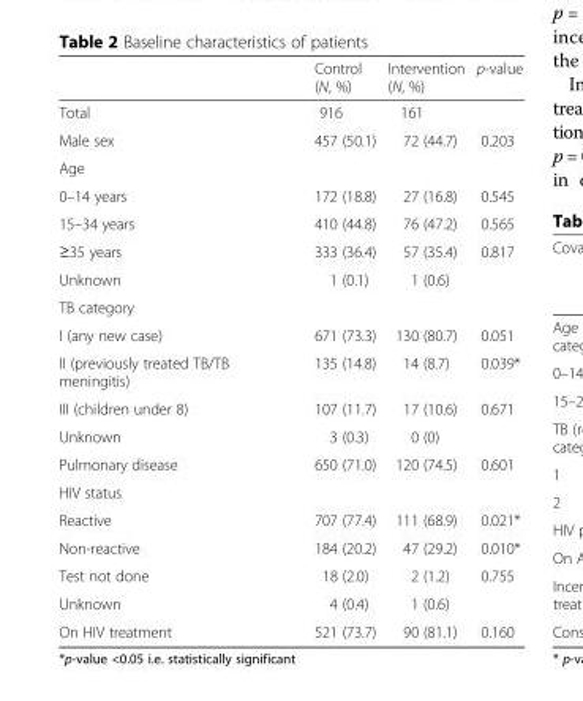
<table><thead><tr><td></td><td>Control (N, %)</td><td>Intervention (N, %)</td><td>p-value</td></tr></thead><tbody><tr><td>Total</td><td>916</td><td>161</td><td></td></tr><tr><td>Male sex</td><td>457 (50.1)</td><td>72 (44.7)</td><td>0.203</td></tr><tr><td colspan="4">Age</td></tr><tr><td>0–14 years</td><td>172 (18.8)</td><td>27 (16.8)</td><td>0.545</td></tr><tr><td>15–34 years</td><td>410 (44.8)</td><td>76 (47.2)</td><td>0.565</td></tr><tr><td>≥35 years</td><td>333 (36.4)</td><td>57 (35.4)</td><td>0.817</td></tr><tr><td>Unknown</td><td>1 (0.1)</td><td>1 (0.6)</td><td></td></tr><tr><td colspan="4">TB category</td></tr><tr><td>I (any new case)</td><td>671 (73.3)</td><td>130 (80.7)</td><td>0.051</td></tr><tr><td>II (previously treated TB/TB meningitis)</td><td>135 (14.8)</td><td>14 (8.7)</td><td>0.039*</td></tr><tr><td>III (children under 8)</td><td>107 (11.7)</td><td>17 (10.6)</td><td>0.671</td></tr><tr><td>Unknown</td><td>3 (0.3)</td><td>0 (0)</td><td></td></tr><tr><td>Pulmonary disease</td><td>650 (71.0)</td><td>120 (74.5)</td><td>0.601</td></tr><tr><td colspan="4">HIV status</td></tr><tr><td>Reactive</td><td>707 (77.4)</td><td>111 (68.9)</td><td>0.021*</td></tr><tr><td>Non-reactive</td><td>184 (20.2)</td><td>47 (29.2)</td><td>0.010*</td></tr><tr><td>Test not done</td><td>18 (2.0)</td><td>2 (1.2)</td><td>0.755</td></tr><tr><td>Unknown</td><td>4 (0.4)</td><td>1 (0.6)</td><td></td></tr><tr><td>On HIV treatment</td><td>521 (73.7)</td><td>90 (81.1)</td><td>0.160</td></tr></tbody></table>